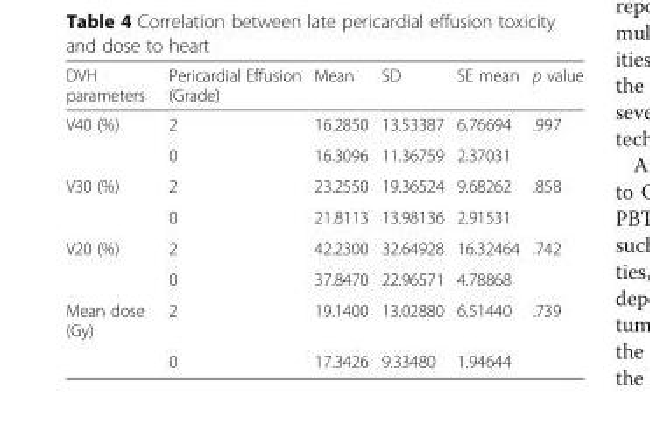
<table><thead><tr><td>DVH parameters</td><td>Pericardial Effusion (Grade)</td><td>Mean</td><td>SD</td><td>SE mean</td><td>p value</td></tr></thead><tbody><tr><td rowspan="2">V40 (%)</td><td>2</td><td>16.2850</td><td>13.53387</td><td>6.76694</td><td>.997</td></tr><tr><td>0</td><td>16.3096</td><td>11.36759</td><td>2.37031</td><td></td></tr><tr><td rowspan="2">V30 (%)</td><td>2</td><td>23.2550</td><td>19.36524</td><td>9.68262</td><td>.858</td></tr><tr><td>0</td><td>21.8113</td><td>13.98136</td><td>2.91531</td><td></td></tr><tr><td rowspan="2">V20 (%)</td><td>2</td><td>42.2300</td><td>32.64928</td><td>16.32464</td><td>.742</td></tr><tr><td>0</td><td>37.8470</td><td>22.96571</td><td>4.78868</td><td></td></tr><tr><td rowspan="2">Mean dose (Gy)</td><td>2</td><td>19.1400</td><td>13.02880</td><td>6.51440</td><td>.739</td></tr><tr><td>0</td><td>17.3426</td><td>9.33480</td><td>1.94644</td><td></td></tr></tbody></table>